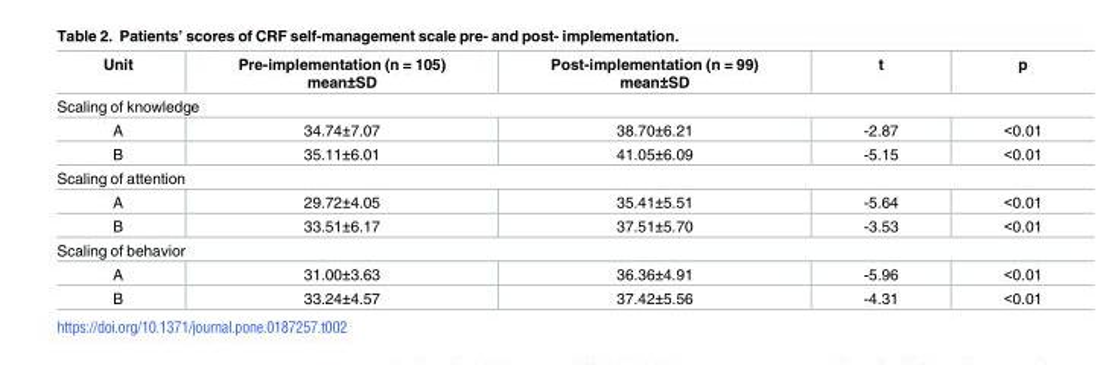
<table><thead><tr><td>Unit</td><td>Pre-implementation (n = 105) mean±SD</td><td>Post-implementation (n = 99) mean±SD</td><td>t</td><td>p</td></tr></thead><tbody><tr><td colspan="5">Scaling of knowledge</td></tr><tr><td>A</td><td>34.74±7.07</td><td>38.70±6.21</td><td>-2.87</td><td>&lt;0.01</td></tr><tr><td>B</td><td>35.11±6.01</td><td>41.05±6.09</td><td>-5.15</td><td>&lt;0.01</td></tr><tr><td colspan="5">Scaling of attention</td></tr><tr><td>A</td><td>29.72±4.05</td><td>35.41±5.51</td><td>-5.64</td><td>&lt;0.01</td></tr><tr><td>B</td><td>33.51±6.17</td><td>37.51±5.70</td><td>-3.53</td><td>&lt;0.01</td></tr><tr><td colspan="5">Scaling of behavior</td></tr><tr><td>A</td><td>31.00±3.63</td><td>36.36±4.91</td><td>-5.96</td><td>&lt;0.01</td></tr><tr><td>B</td><td>33.24±4.57</td><td>37.42±5.56</td><td>-4.31</td><td>&lt;0.01</td></tr></tbody></table>